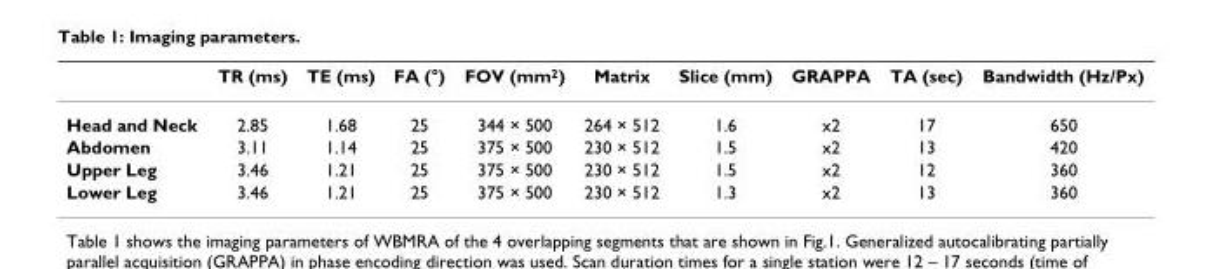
<table><thead><tr><td></td><td>TR (ms)</td><td>TE (ms)</td><td>FA (°)</td><td>FOV (mm<sup>2</sup>)</td><td>Matrix</td><td>Slice (mm)</td><td>GRAPPA</td><td>TA (sec)</td><td>Bandwidth (Hz/Px)</td></tr></thead><tbody><tr><td>Head and Neck</td><td>2.85</td><td>1.68</td><td>25</td><td>344 × 500</td><td>264 × 512</td><td>1.6</td><td>x2</td><td>17</td><td>650</td></tr><tr><td>Abdomen</td><td>3.11</td><td>1.14</td><td>25</td><td>375 × 500</td><td>230 × 512</td><td>1.5</td><td>x2</td><td>13</td><td>420</td></tr><tr><td>Upper Leg</td><td>3.46</td><td>1.21</td><td>25</td><td>375 × 500</td><td>230 × 512</td><td>1.5</td><td>x2</td><td>12</td><td>360</td></tr><tr><td>Lower Leg</td><td>3.46</td><td>1.21</td><td>25</td><td>375 × 500</td><td>230 × 512</td><td>1.3</td><td>x2</td><td>13</td><td>360</td></tr></tbody></table>